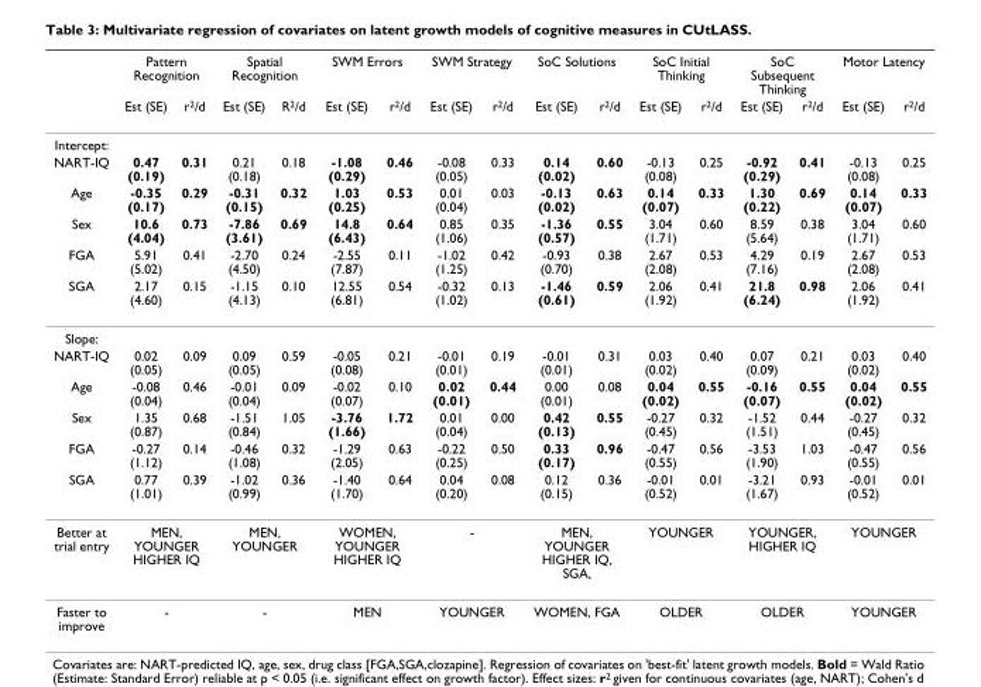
<table><thead><tr><td rowspan="2"></td><td colspan="2">Pattern Recognition</td><td colspan="2">Spatial Recognition</td><td colspan="2">SWM Errors</td><td colspan="2">SWM Strategy</td><td colspan="2">SoC Solutions</td><td colspan="2">SoC Initial Thinking</td><td colspan="2">SoC Subsequent Thinking</td><td colspan="2">Motor Latency</td></tr><tr><td>Est (SE)</td><td>r<sup>2</sup>/d</td><td>Est (SE)</td><td>R<sup>2</sup>/d</td><td>Est (SE)</td><td>r<sup>2</sup>/d</td><td>Est (SE)</td><td>r<sup>2</sup>/d</td><td>Est (SE)</td><td>r<sup>2</sup>/d</td><td>Est (SE)</td><td>r<sup>2</sup>/d</td><td>Est (SE)</td><td>r<sup>2</sup>/d</td><td>Est (SE)</td><td>r<sup>2</sup>/d</td></tr></thead><tbody><tr><td colspan="17">Intercept:</td></tr><tr><td>NART-IQ</td><td>0.47 (0.19)</td><td>0.31</td><td>0.21 (0.18)</td><td>0.18</td><td>-1.08 (0.29)</td><td>0.46</td><td>-0.08 (0.05)</td><td>0.33</td><td>0.14 (0.02)</td><td>0.60</td><td>-0.13 (0.08)</td><td>0.25</td><td>-0.92 (0.29)</td><td>0.41</td><td>-0.13 (0.08)</td><td>0.25</td></tr><tr><td>Age</td><td>-0.35 (0.17)</td><td>0.29</td><td>-0.31 (0.15)</td><td>0.32</td><td>1.03 (0.25)</td><td>0.53</td><td>0.01 (0.04)</td><td>0.03</td><td>-0.13 (0.02)</td><td>0.63</td><td>0.14 (0.07)</td><td>0.33</td><td>1.30 (0.22)</td><td>0.69</td><td>0.14 (0.07)</td><td>0.33</td></tr><tr><td>Sex</td><td>10.6 (4.04)</td><td>0.73</td><td>-7.86 (3.61)</td><td>0.69</td><td>14.8 (6.43)</td><td>0.64</td><td>0.85 (1.06)</td><td>0.35</td><td>-1.36 (0.57)</td><td>0.55</td><td>3.04 (1.71)</td><td>0.60</td><td>8.59 (5.64)</td><td>0.38</td><td>3.04 (1.71)</td><td>0.60</td></tr><tr><td>FGA</td><td>5.91 (5.02)</td><td>0.41</td><td>-2.70 (4.50)</td><td>0.24</td><td>-2.55 (7.87)</td><td>0.11</td><td>-1.02 (1.25)</td><td>0.42</td><td>-0.93 (0.70)</td><td>0.38</td><td>2.67 (2.08)</td><td>0.53</td><td>4.29 (7.16)</td><td>0.19</td><td>2.67 (2.08)</td><td>0.53</td></tr><tr><td>SGA</td><td>2.17 (4.60)</td><td>0.15</td><td>-1.15 (4.13)</td><td>0.10</td><td>12.55 (6.81)</td><td>0.54</td><td>-0.32 (1.02)</td><td>0.13</td><td>-1.46 (0.61)</td><td>0.59</td><td>2.06 (1.92)</td><td>0.41</td><td>21.8 (6.24)</td><td>0.98</td><td>2.06 (1.92)</td><td>0.41</td></tr><tr><td colspan="17">Slope:</td></tr><tr><td>NART-IQ</td><td>0.02 (0.05)</td><td>0.09</td><td>0.09 (0.05)</td><td>0.59</td><td>-0.05 (0.08)</td><td>0.21</td><td>-0.01 (0.01)</td><td>0.19</td><td>-0.01 (0.01)</td><td>0.31</td><td>0.03 (0.02)</td><td>0.40</td><td>0.07 (0.09)</td><td>0.21</td><td>0.03 (0.02)</td><td>0.40</td></tr><tr><td>Age</td><td>-0.08 (0.04)</td><td>0.46</td><td>-0.01 (0.04)</td><td>0.09</td><td>-0.02 (0.07)</td><td>0.10</td><td>0.02 (0.01)</td><td>0.44</td><td>0.00 (0.01)</td><td>0.08</td><td>0.04 (0.02)</td><td>0.55</td><td>-0.16 (0.07)</td><td>0.55</td><td>0.04 (0.02)</td><td>0.55</td></tr><tr><td>Sex</td><td>1.35 (0.87)</td><td>0.68</td><td>-1.51 (0.84)</td><td>1.05</td><td>-3.76 (1.66)</td><td>1.72</td><td>0.01 (0.04)</td><td>0.00</td><td>0.42 (0.13)</td><td>0.55</td><td>-0.27 (0.45)</td><td>0.32</td><td>-1.52 (1.51)</td><td>0.44</td><td>-0.27 (0.45)</td><td>0.32</td></tr><tr><td>FGA</td><td>-0.27 (1.12)</td><td>0.14</td><td>-0.46 (1.08)</td><td>0.32</td><td>-1.29 (2.05)</td><td>0.63</td><td>-0.22 (0.25)</td><td>0.50</td><td>0.33 (0.17)</td><td>0.96</td><td>-0.47 (0.55)</td><td>0.56</td><td>-3.53 (1.90)</td><td>1.03</td><td>-0.47 (0.55)</td><td>0.56</td></tr><tr><td>SGA</td><td>0.77 (1.01)</td><td>0.39</td><td>-1.02 (0.99)</td><td>0.36</td><td>-1.40 (1.70)</td><td>0.64</td><td>0.04 (0.20)</td><td>0.08</td><td>0.12 (0.15)</td><td>0.36</td><td>-0.01 (0.52)</td><td>0.01</td><td>-3.21 (1.67)</td><td>0.93</td><td>-0.01 (0.52)</td><td>0.01</td></tr><tr><td>Better at trial entry</td><td colspan="2">MEN, YOUNGER HIGHER IQ</td><td colspan="2">MEN, YOUNGER</td><td colspan="2">WOMEN, YOUNGER HIGHER IQ</td><td colspan="2">-</td><td colspan="2">MEN, YOUNGER HIGHER IQ, SGA,</td><td colspan="2">YOUNGER</td><td colspan="2">YOUNGER, HIGHER IQ</td><td colspan="2">YOUNGER</td></tr><tr><td>Faster to improve</td><td colspan="2">-</td><td colspan="2">-</td><td colspan="2">MEN</td><td colspan="2">YOUNGER</td><td colspan="2">WOMEN, FGA</td><td colspan="2">OLDER</td><td colspan="2">OLDER</td><td colspan="2">YOUNGER</td></tr></tbody></table>